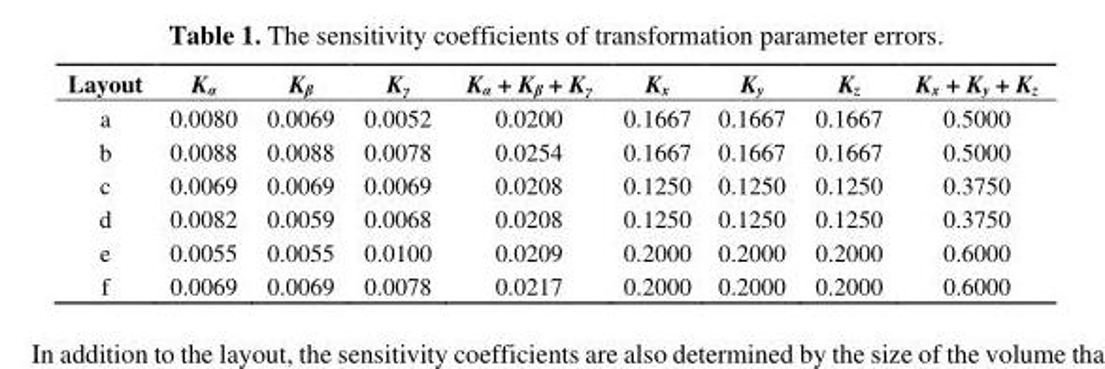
<table><thead><tr><td>Layout</td><td>K<sub>α</sub></td><td>K<sub>β</sub></td><td>K<sub>γ</sub></td><td>K<sub>α</sub> + K<sub>β</sub> + K<sub>γ</sub></td><td>K<sub>x</sub></td><td>K<sub>y</sub></td><td>K<sub>z</sub></td><td>K<sub>x</sub> + K<sub>y</sub> + K<sub>z</sub></td></tr></thead><tbody><tr><td>a</td><td>0.0080</td><td>0.0069</td><td>0.0052</td><td>0.0200</td><td>0.1667</td><td>0.1667</td><td>0.1667</td><td>0.5000</td></tr><tr><td>b</td><td>0.0088</td><td>0.0088</td><td>0.0078</td><td>0.0254</td><td>0.1667</td><td>0.1667</td><td>0.1667</td><td>0.5000</td></tr><tr><td>c</td><td>0.0069</td><td>0.0069</td><td>0.0069</td><td>0.0208</td><td>0.1250</td><td>0.1250</td><td>0.1250</td><td>0.3750</td></tr><tr><td>d</td><td>0.0082</td><td>0.0059</td><td>0.0068</td><td>0.0208</td><td>0.1250</td><td>0.1250</td><td>0.1250</td><td>0.3750</td></tr><tr><td>e</td><td>0.0055</td><td>0.0055</td><td>0.0100</td><td>0.0209</td><td>0.2000</td><td>0.2000</td><td>0.2000</td><td>0.6000</td></tr><tr><td>f</td><td>0.0069</td><td>0.0069</td><td>0.0078</td><td>0.0217</td><td>0.2000</td><td>0.2000</td><td>0.2000</td><td>0.6000</td></tr></tbody></table>